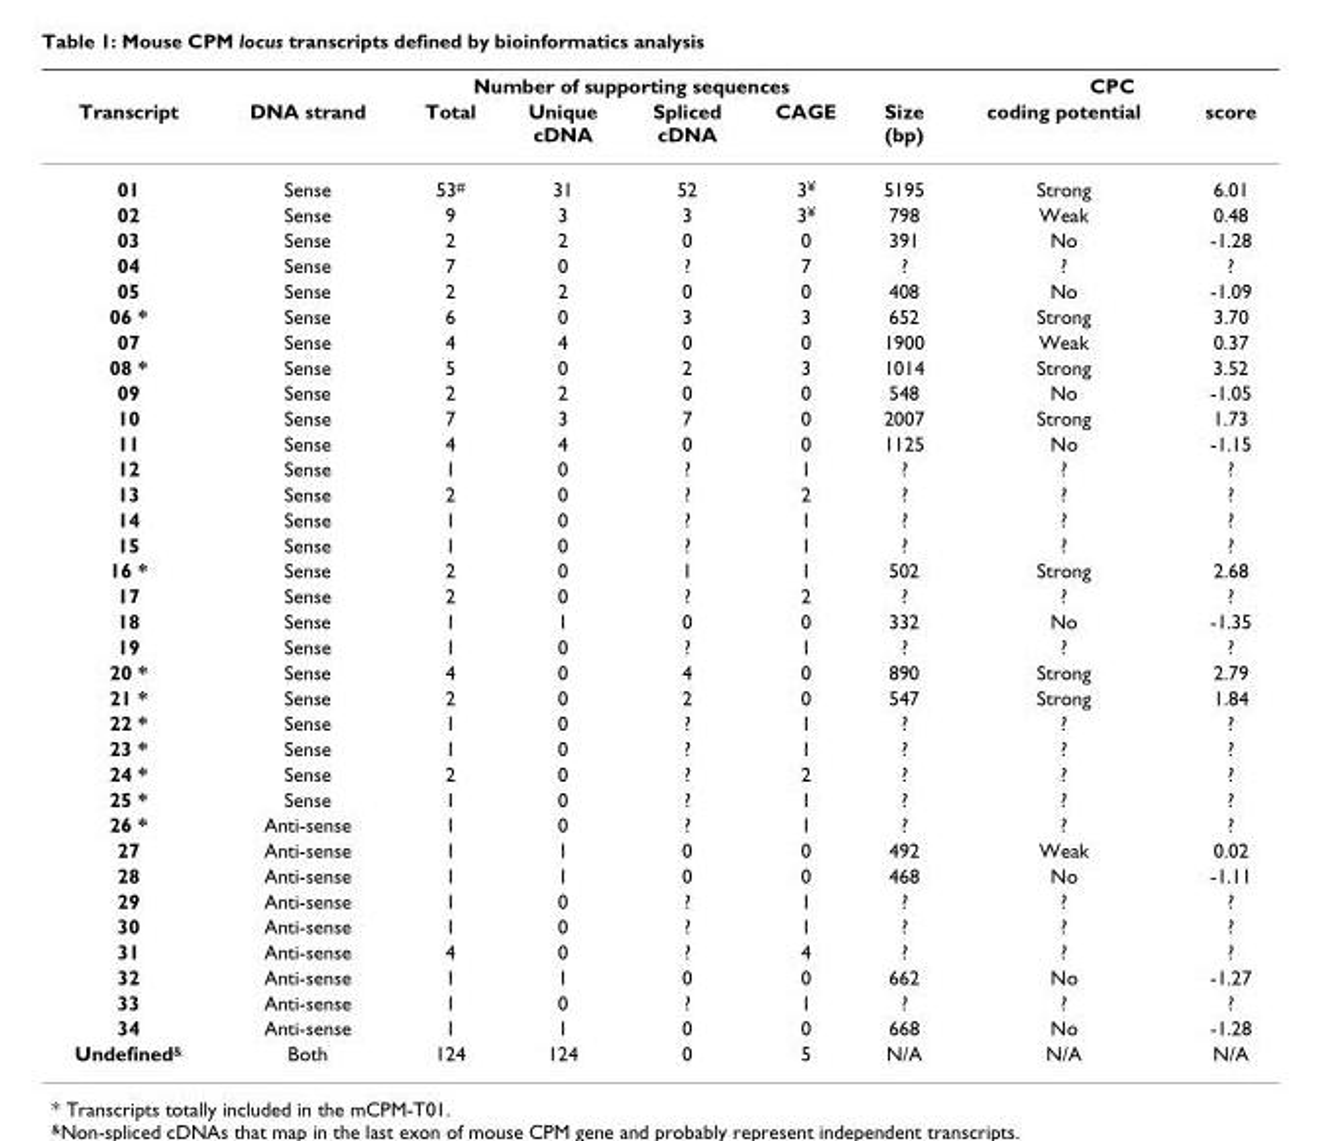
<table><thead><tr><td rowspan="2">Transcript</td><td rowspan="2">DNA strand</td><td colspan="4">Number of supporting sequences</td><td rowspan="2">Size (bp)</td><td colspan="2">CPC</td></tr><tr><td>Total</td><td>Unique cDNA</td><td>Spliced cDNA</td><td>CAGE</td><td>coding potential</td><td>score</td></tr></thead><tbody><tr><td>01</td><td>Sense</td><td>53<sup>#</sup></td><td>31</td><td>52</td><td>3<sup>¥</sup></td><td>5195</td><td>Strong</td><td>6.01</td></tr><tr><td>02</td><td>Sense</td><td>9</td><td>3</td><td>3</td><td>3<sup>¥</sup></td><td>798</td><td>Weak</td><td>0.48</td></tr><tr><td>03</td><td>Sense</td><td>2</td><td>2</td><td>0</td><td>0</td><td>391</td><td>No</td><td>-1.28</td></tr><tr><td>04</td><td>Sense</td><td>7</td><td>0</td><td>?</td><td>7</td><td>?</td><td>?</td><td>?</td></tr><tr><td>05</td><td>Sense</td><td>2</td><td>2</td><td>0</td><td>0</td><td>408</td><td>No</td><td>-1.09</td></tr><tr><td>06 *</td><td>Sense</td><td>6</td><td>0</td><td>3</td><td>3</td><td>652</td><td>Strong</td><td>3.70</td></tr><tr><td>07</td><td>Sense</td><td>4</td><td>4</td><td>0</td><td>0</td><td>1900</td><td>Weak</td><td>0.37</td></tr><tr><td>08 *</td><td>Sense</td><td>5</td><td>0</td><td>2</td><td>3</td><td>1014</td><td>Strong</td><td>3.52</td></tr><tr><td>09</td><td>Sense</td><td>2</td><td>2</td><td>0</td><td>0</td><td>548</td><td>No</td><td>-1.05</td></tr><tr><td>10</td><td>Sense</td><td>7</td><td>3</td><td>7</td><td>0</td><td>2007</td><td>Strong</td><td>1.73</td></tr><tr><td>11</td><td>Sense</td><td>4</td><td>4</td><td>0</td><td>0</td><td>1125</td><td>No</td><td>-1.15</td></tr><tr><td>12</td><td>Sense</td><td>1</td><td>0</td><td>?</td><td>1</td><td>?</td><td>?</td><td>?</td></tr><tr><td>13</td><td>Sense</td><td>2</td><td>0</td><td>?</td><td>2</td><td>?</td><td>?</td><td>?</td></tr><tr><td>14</td><td>Sense</td><td>1</td><td>0</td><td>?</td><td>1</td><td>?</td><td>?</td><td>?</td></tr><tr><td>15</td><td>Sense</td><td>1</td><td>0</td><td>?</td><td>1</td><td>?</td><td>?</td><td>?</td></tr><tr><td>16 *</td><td>Sense</td><td>2</td><td>0</td><td>1</td><td>1</td><td>502</td><td>Strong</td><td>2.68</td></tr><tr><td>17</td><td>Sense</td><td>2</td><td>0</td><td>?</td><td>2</td><td>?</td><td>?</td><td>?</td></tr><tr><td>18</td><td>Sense</td><td>1</td><td>1</td><td>0</td><td>0</td><td>332</td><td>No</td><td>-1.35</td></tr><tr><td>19</td><td>Sense</td><td>1</td><td>0</td><td>?</td><td>1</td><td>?</td><td>?</td><td>?</td></tr><tr><td>20 *</td><td>Sense</td><td>4</td><td>0</td><td>4</td><td>0</td><td>890</td><td>Strong</td><td>2.79</td></tr><tr><td>21 *</td><td>Sense</td><td>2</td><td>0</td><td>2</td><td>0</td><td>547</td><td>Strong</td><td>1.84</td></tr><tr><td>22 *</td><td>Sense</td><td>1</td><td>0</td><td>?</td><td>1</td><td>?</td><td>?</td><td>?</td></tr><tr><td>23 *</td><td>Sense</td><td>1</td><td>0</td><td>?</td><td>1</td><td>?</td><td>?</td><td>?</td></tr><tr><td>24 *</td><td>Sense</td><td>2</td><td>0</td><td>?</td><td>2</td><td>?</td><td>?</td><td>?</td></tr><tr><td>25 *</td><td>Sense</td><td>1</td><td>0</td><td>?</td><td>1</td><td>?</td><td>?</td><td>?</td></tr><tr><td>26 *</td><td>Anti-sense</td><td>1</td><td>0</td><td>?</td><td>1</td><td>?</td><td>?</td><td>?</td></tr><tr><td>27</td><td>Anti-sense</td><td>1</td><td>1</td><td>0</td><td>0</td><td>492</td><td>Weak</td><td>0.02</td></tr><tr><td>28</td><td>Anti-sense</td><td>1</td><td>1</td><td>0</td><td>0</td><td>468</td><td>No</td><td>-1.11</td></tr><tr><td>29</td><td>Anti-sense</td><td>1</td><td>0</td><td>?</td><td>1</td><td>?</td><td>?</td><td>?</td></tr><tr><td>30</td><td>Anti-sense</td><td>1</td><td>0</td><td>?</td><td>1</td><td>?</td><td>?</td><td>?</td></tr><tr><td>31</td><td>Anti-sense</td><td>4</td><td>0</td><td>?</td><td>4</td><td>?</td><td>?</td><td>?</td></tr><tr><td>32</td><td>Anti-sense</td><td>1</td><td>1</td><td>0</td><td>0</td><td>662</td><td>No</td><td>-1.27</td></tr><tr><td>33</td><td>Anti-sense</td><td>1</td><td>0</td><td>?</td><td>1</td><td>?</td><td>?</td><td>?</td></tr><tr><td>34</td><td>Anti-sense</td><td>1</td><td>1</td><td>0</td><td>0</td><td>668</td><td>No</td><td>-1.28</td></tr><tr><td>Undefined<sup>&amp;</sup></td><td>Both</td><td>124</td><td>124</td><td>0</td><td>5</td><td>N/A</td><td>N/A</td><td>N/A</td></tr></tbody></table>